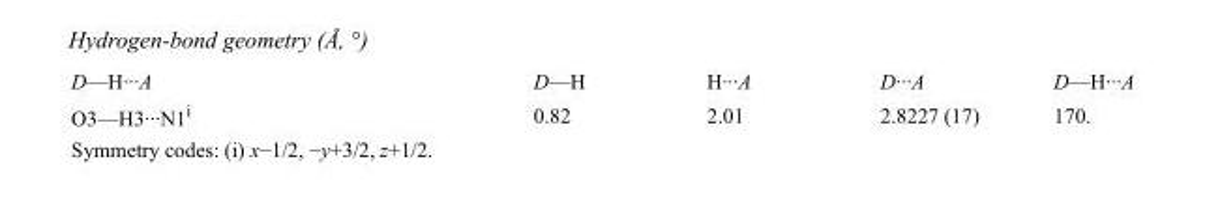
<table><tbody><tr><td>D—H···A</td><td>D—H</td><td>H···A</td><td>D···A</td><td>D—H···A</td></tr><tr><td>O3—H3···N1<sup>i</sup></td><td>0.82</td><td>2.01</td><td>2.8227 (17)</td><td>170.</td></tr></tbody></table>